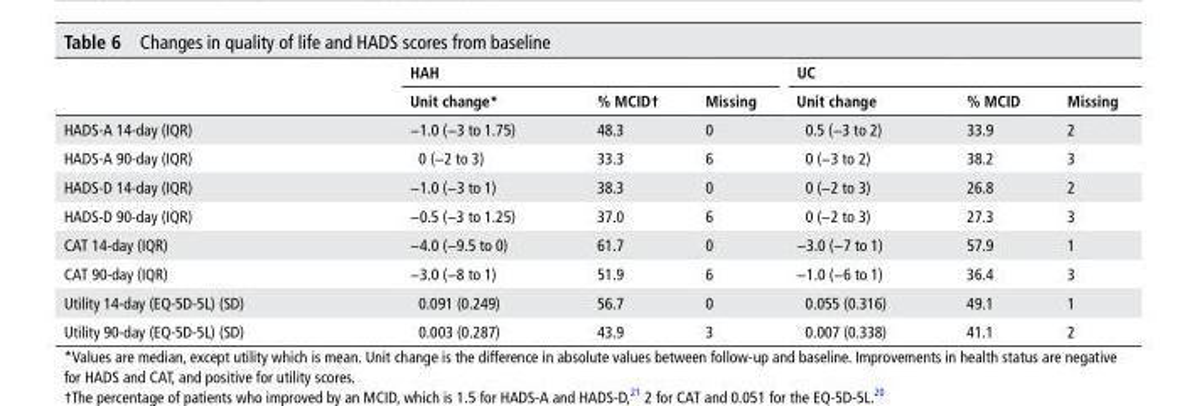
<table><thead><tr><td rowspan="2"></td><td colspan="3">hAh</td><td colspan="3">uC</td></tr><tr><td>unit change*</td><td>% MCId†</td><td>Missing</td><td>unit change</td><td>% MCId</td><td>Missing</td></tr></thead><tbody><tr><td>HADS-A 14-day (IQR)</td><td>−1.0 (−3 to 1.75)</td><td>48.3</td><td>0</td><td>0.5 (−3 to 2)</td><td>33.9</td><td>2</td></tr><tr><td>HADS-A 90-day (IQR)</td><td>0 (−2 to 3)</td><td>33.3</td><td>6</td><td>0 (−3 to 2)</td><td>38.2</td><td>3</td></tr><tr><td>HADS-D 14-day (IQR)</td><td>−1.0 (−3 to 1)</td><td>38.3</td><td>0</td><td>0 (−2 to 3)</td><td>26.8</td><td>2</td></tr><tr><td>HADS-D 90-day (IQR)</td><td>−0.5 (−3 to 1.25)</td><td>37.0</td><td>6</td><td>0 (−2 to 3)</td><td>27.3</td><td>3</td></tr><tr><td>CAT 14-day (IQR)</td><td>−4.0 (−9.5 to 0)</td><td>61.7</td><td>0</td><td>−3.0 (−7 to 1)</td><td>57.9</td><td>1</td></tr><tr><td>CAT 90-day (IQR)</td><td>−3.0 (−8 to 1)</td><td>51.9</td><td>6</td><td>−1.0 (−6 to 1)</td><td>36.4</td><td>3</td></tr><tr><td>Utility 14-day (EQ-5D-5L) (SD)</td><td>0.091 (0.249)</td><td>56.7</td><td>0</td><td>0.055 (0.316)</td><td>49.1</td><td>1</td></tr><tr><td>Utility 90-day (EQ-5D-5L) (SD)</td><td>0.003 (0.287)</td><td>43.9</td><td>3</td><td>0.007 (0.338)</td><td>41.1</td><td>2</td></tr></tbody></table>